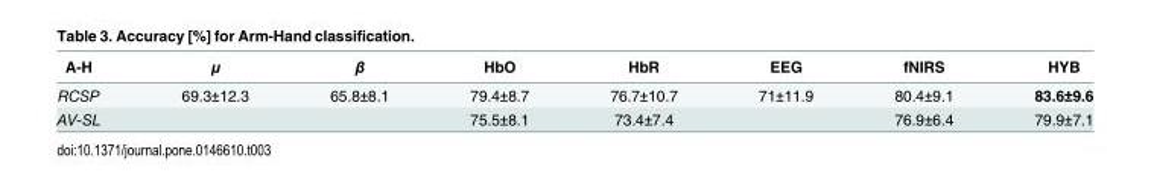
<table><thead><tr><td>A-H</td><td>μ</td><td>β</td><td>HbO</td><td>HbR</td><td>EEG</td><td>fNIRS</td><td>HYB</td></tr></thead><tbody><tr><td>RCSP</td><td>69.3±12.3</td><td>65.8±8.1</td><td>79.4±8.7</td><td>76.7±10.7</td><td>71±11.9</td><td>80.4±9.1</td><td>83.6±9.6</td></tr><tr><td>AV-SL</td><td></td><td></td><td>75.5±8.1</td><td>73.4±7.4</td><td></td><td>76.9±6.4</td><td>79.9±7.1</td></tr></tbody></table>